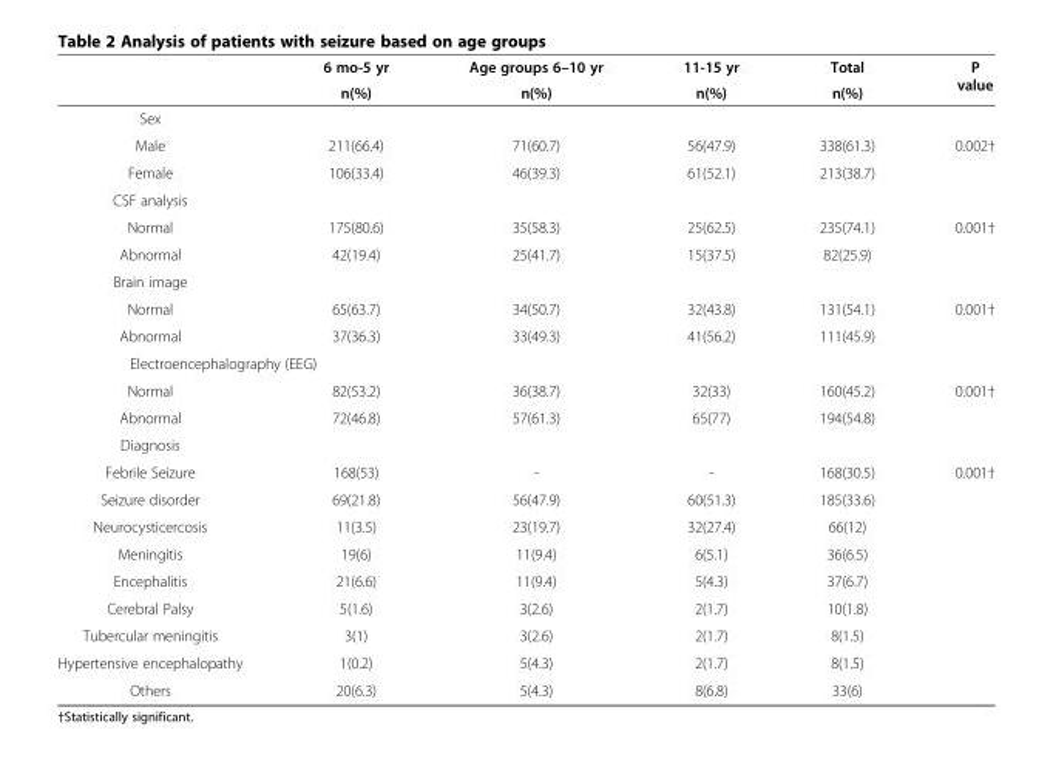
<table><thead><tr><td rowspan="2"></td><td rowspan="2">6 mo-5 yr n(%)</td><td rowspan="2">Age groups 6–10 yr n(%)</td><td rowspan="2">11-15 yr n(%)</td><td rowspan="2">Total n(%)</td><td rowspan="2">P value</td></tr><tr></tr></thead><tbody><tr><td colspan="6">Sex</td></tr><tr><td>Male</td><td>211(66.4)</td><td>71(60.7)</td><td>56(47.9)</td><td>338(61.3)</td><td rowspan="2">0.002†</td></tr><tr><td>Female</td><td>106(33.4)</td><td>46(39.3)</td><td>61(52.1)</td><td>213(38.7)</td></tr><tr><td colspan="6">CSF analysis</td></tr><tr><td>Normal</td><td>175(80.6)</td><td>35(58.3)</td><td>25(62.5)</td><td>235(74.1)</td><td rowspan="2">0.001†</td></tr><tr><td>Abnormal</td><td>42(19.4)</td><td>25(41.7)</td><td>15(37.5)</td><td>82(25.9)</td></tr><tr><td colspan="6">Brain image</td></tr><tr><td>Normal</td><td>65(63.7)</td><td>34(50.7)</td><td>32(43.8)</td><td>131(54.1)</td><td rowspan="2">0.001†</td></tr><tr><td>Abnormal</td><td>37(36.3)</td><td>33(49.3)</td><td>41(56.2)</td><td>111(45.9)</td></tr><tr><td colspan="6">Electroencephalography (EEG)</td></tr><tr><td>Normal</td><td>82(53.2)</td><td>36(38.7)</td><td>32(33)</td><td>160(45.2)</td><td rowspan="2">0.001†</td></tr><tr><td>Abnormal</td><td>72(46.8)</td><td>57(61.3)</td><td>65(77)</td><td>194(54.8)</td></tr><tr><td colspan="6">Diagnosis</td></tr><tr><td>Febrile Seizure</td><td>168(53)</td><td>-</td><td>-</td><td>168(30.5)</td><td rowspan="9">0.001†</td></tr><tr><td>Seizure disorder</td><td>69(21.8)</td><td>56(47.9)</td><td>60(51.3)</td><td>185(33.6)</td></tr><tr><td>Neurocysticercosis</td><td>11(3.5)</td><td>23(19.7)</td><td>32(27.4)</td><td>66(12)</td></tr><tr><td>Meningitis</td><td>19(6)</td><td>11(9.4)</td><td>6(5.1)</td><td>36(6.5)</td></tr><tr><td>Encephalitis</td><td>21(6.6)</td><td>11(9.4)</td><td>5(4.3)</td><td>37(6.7)</td></tr><tr><td>Cerebral Palsy</td><td>5(1.6)</td><td>3(2.6)</td><td>2(1.7)</td><td>10(1.8)</td></tr><tr><td>Tubercular meningitis</td><td>3(1)</td><td>3(2.6)</td><td>2(1.7)</td><td>8(1.5)</td></tr><tr><td>Hypertensive encephalopathy</td><td>1(0.2)</td><td>5(4.3)</td><td>2(1.7)</td><td>8(1.5)</td></tr><tr><td>Others</td><td>20(6.3)</td><td>5(4.3)</td><td>8(6.8)</td><td>33(6)</td></tr></tbody></table>